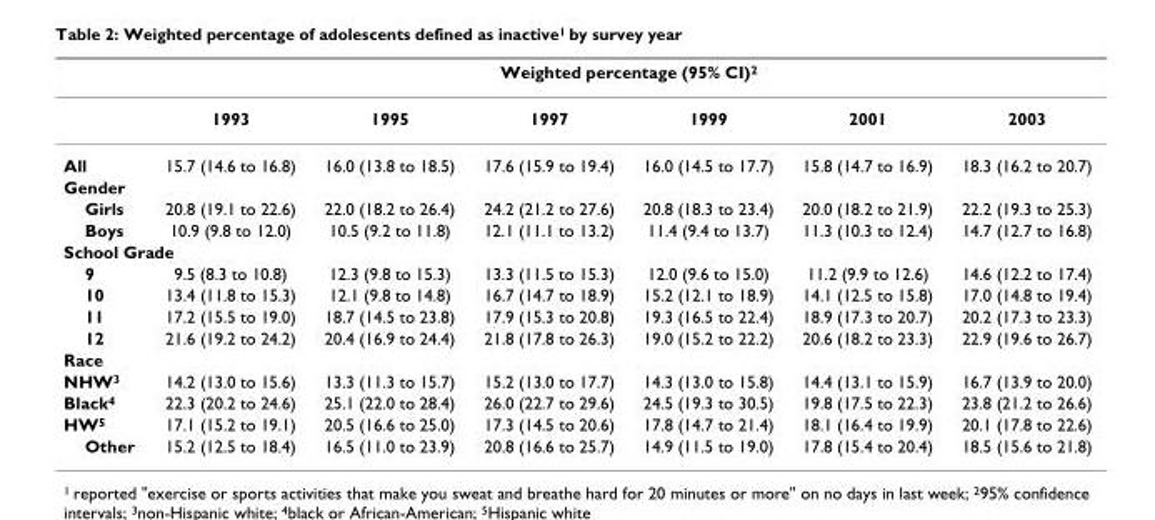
<table><thead><tr><td rowspan="2"></td><td colspan="6">Weighted percentage (95% CI)2</td></tr><tr><td>1993</td><td>1995</td><td>1997</td><td>1999</td><td>2001</td><td>2003</td></tr></thead><tbody><tr><td>All</td><td>15.7 (14.6 to 16.8)</td><td>16.0 (13.8 to 18.5)</td><td>17.6 (15.9 to 19.4)</td><td>16.0 (14.5 to 17.7)</td><td>15.8 (14.7 to 16.9)</td><td>18.3 (16.2 to 20.7)</td></tr><tr><td colspan="7">Gender</td></tr><tr><td>Girls</td><td>20.8 (19.1 to 22.6)</td><td>22.0 (18.2 to 26.4)</td><td>24.2 (21.2 to 27.6)</td><td>20.8 (18.3 to 23.4)</td><td>20.0 (18.2 to 21.9)</td><td>22.2 (19.3 to 25.3)</td></tr><tr><td>Boys</td><td>10.9 (9.8 to 12.0)</td><td>10.5 (9.2 to 11.8)</td><td>12.1 (11.1 to 13.2)</td><td>11.4 (9.4 to 13.7)</td><td>11.3 (10.3 to 12.4)</td><td>14.7 (12.7 to 16.8)</td></tr><tr><td colspan="7">School Grade</td></tr><tr><td>9</td><td>9.5 (8.3 to 10.8)</td><td>12.3 (9.8 to 15.3)</td><td>13.3 (11.5 to 15.3)</td><td>12.0 (9.6 to 15.0)</td><td>11.2 (9.9 to 12.6)</td><td>14.6 (12.2 to 17.4)</td></tr><tr><td>10</td><td>13.4 (11.8 to 15.3)</td><td>12.1 (9.8 to 14.8)</td><td>16.7 (14.7 to 18.9)</td><td>15.2 (12.1 to 18.9)</td><td>14.1 (12.5 to 15.8)</td><td>17.0 (14.8 to 19.4)</td></tr><tr><td>11</td><td>17.2 (15.5 to 19.0)</td><td>18.7 (14.5 to 23.8)</td><td>17.9 (15.3 to 20.8)</td><td>19.3 (16.5 to 22.4)</td><td>18.9 (17.3 to 20.7)</td><td>20.2 (17.3 to 23.3)</td></tr><tr><td>12</td><td>21.6 (19.2 to 24.2)</td><td>20.4 (16.9 to 24.4)</td><td>21.8 (17.8 to 26.3)</td><td>19.0 (15.2 to 22.2)</td><td>20.6 (18.2 to 23.3)</td><td>22.9 (19.6 to 26.7)</td></tr><tr><td colspan="7">Race</td></tr><tr><td>NHW3</td><td>14.2 (13.0 to 15.6)</td><td>13.3 (11.3 to 15.7)</td><td>15.2 (13.0 to 17.7)</td><td>14.3 (13.0 to 15.8)</td><td>14.4 (13.1 to 15.9)</td><td>16.7 (13.9 to 20.0)</td></tr><tr><td>Black4</td><td>22.3 (20.2 to 24.6)</td><td>25.1 (22.0 to 28.4)</td><td>26.0 (22.7 to 29.6)</td><td>24.5 (19.3 to 30.5)</td><td>19.8 (17.5 to 22.3)</td><td>23.8 (21.2 to 26.6)</td></tr><tr><td>HW5</td><td>17.1 (15.2 to 19.1)</td><td>20.5 (16.6 to 25.0)</td><td>17.3 (14.5 to 20.6)</td><td>17.8 (14.7 to 21.4)</td><td>18.1 (16.4 to 19.9)</td><td>20.1 (17.8 to 22.6)</td></tr><tr><td>Other</td><td>15.2 (12.5 to 18.4)</td><td>16.5 (11.0 to 23.9)</td><td>20.8 (16.6 to 25.7)</td><td>14.9 (11.5 to 19.0)</td><td>17.8 (15.4 to 20.4)</td><td>18.5 (15.6 to 21.8)</td></tr></tbody></table>